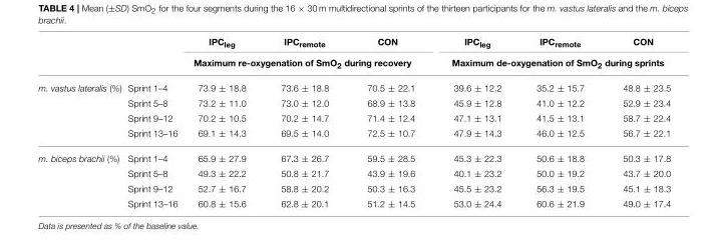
<table><thead><tr><td rowspan="2"></td><td rowspan="2"></td><td>IPC<sub>leg</sub></td><td>IPC<sub>remote</sub></td><td>CON</td><td>IPC<sub>leg</sub></td><td>IPC<sub>remote</sub></td><td>CON</td></tr><tr><td colspan="3">Maximum re-oxygenation of SmO<sub>2</sub> during recovery</td><td colspan="3">Maximum de-oxygenation of SmO<sub>2</sub> during sprints</td></tr></thead><tbody><tr><td rowspan="4">m. vastus lateralis (%)</td><td>Sprint 1–4</td><td>73.9 ± 18.8</td><td>73.6 ± 18.8</td><td>70.5 ± 22.1</td><td>39.6 ± 12.2</td><td>35.2 ± 15.7</td><td>48.8 ± 23.5</td></tr><tr><td>Sprint 5–8</td><td>73.2 ± 11.0</td><td>73.0 ± 12.0</td><td>68.9 ± 13.8</td><td>45.9 ± 12.8</td><td>41.0 ± 12.2</td><td>52.9 ± 23.4</td></tr><tr><td>Sprint 9–12</td><td>70.2 ± 10.5</td><td>70.2 ± 14.7</td><td>71.4 ± 12.4</td><td>47.1 ± 13.1</td><td>41.5 ± 13.1</td><td>58.7 ± 22.4</td></tr><tr><td>Sprint 13–16</td><td>69.1 ± 14.3</td><td>69.5 ± 14.0</td><td>72.5 ± 10.7</td><td>47.9 ± 14.3</td><td>46.0 ± 12.5</td><td>56.7 ± 22.1</td></tr><tr><td rowspan="4">m. biceps brachii (%)</td><td>Sprint 1–4</td><td>65.9 ± 27.9</td><td>67.3 ± 26.7</td><td>59.5 ± 28.5</td><td>45.3 ± 22.3</td><td>50.6 ± 18.8</td><td>50.3 ± 17.8</td></tr><tr><td>Sprint 5–8</td><td>49.3 ± 22.2</td><td>50.8 ± 21.7</td><td>43.9 ± 19.6</td><td>40.1 ± 23.2</td><td>50.0 ± 19.2</td><td>43.7 ± 20.0</td></tr><tr><td>Sprint 9–12</td><td>52.7 ± 16.7</td><td>58.8 ± 20.2</td><td>50.3 ± 16.3</td><td>45.5 ± 23.2</td><td>56.3 ± 19.5</td><td>45.1 ± 18.3</td></tr><tr><td>Sprint 13–16</td><td>60.8 ± 15.6</td><td>62.8 ± 20.1</td><td>51.2 ± 14.5</td><td>53.0 ± 24.4</td><td>60.6 ± 21.9</td><td>49.0 ± 17.4</td></tr></tbody></table>